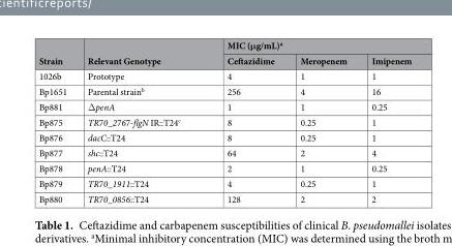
<table><thead><tr><td rowspan="2">Strain</td><td rowspan="2">Relevant Genotype</td><td colspan="3">MIC (μg/mL)<sup>a</sup></td></tr><tr><td>Ceftazidime</td><td>Meropenem</td><td>Imipenem</td></tr></thead><tbody><tr><td>1026b</td><td>Prototype</td><td>4</td><td>1</td><td>1</td></tr><tr><td>Bp1651</td><td>Parental strain<sup>b</sup></td><td>256</td><td>4</td><td>16</td></tr><tr><td>Bp881</td><td>ΔpenA</td><td>1</td><td>1</td><td>0.25</td></tr><tr><td>Bp875</td><td>TR70_2767-flgN IR::T24<sup>c</sup></td><td>8</td><td>0.25</td><td>1</td></tr><tr><td>Bp876</td><td>dacC::T24</td><td>8</td><td>0.25</td><td>1</td></tr><tr><td>Bp877</td><td>shc::T24</td><td>64</td><td>2</td><td>4</td></tr><tr><td>Bp878</td><td>penA::T24</td><td>2</td><td>1</td><td>0.25</td></tr><tr><td>Bp879</td><td>TR70_1911::T24</td><td>4</td><td>0.25</td><td>1</td></tr><tr><td>Bp880</td><td>TR70_0856::T24</td><td>128</td><td>2</td><td>2</td></tr></tbody></table>